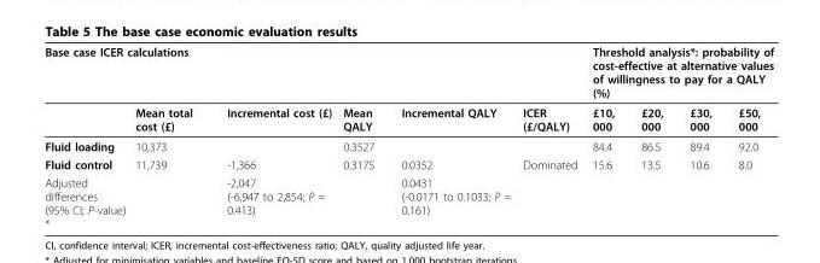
<table><thead><tr><td colspan="6">Base case ICER calculations</td><td colspan="4">Threshold analysis*: probability of cost-effective at alternative values of willingness to pay for a QALY (%)</td></tr><tr><td></td><td>Mean total cost (£)</td><td>Incremental cost (£)</td><td>Mean QALY</td><td>Incremental QALY</td><td>ICER (£/QALY)</td><td>£10, 000</td><td>£20, 000</td><td>£30, 000</td><td>£50, 000</td></tr></thead><tbody><tr><td>Fluid loading</td><td>10,373</td><td></td><td>0.3527</td><td></td><td></td><td>84.4</td><td>86.5</td><td>89.4</td><td>92.0</td></tr><tr><td>Fluid control</td><td>11,739</td><td>-1,366</td><td>0.3175</td><td>0.0352</td><td>Dominated</td><td>15.6</td><td>13.5</td><td>10.6</td><td>8.0</td></tr><tr><td>Adjusted differences (95% CI; P-value)</td><td></td><td>-2,047 (-6,947 to 2,854; P = 0.413)</td><td></td><td>0.0431 (-0.0171 to 0.1033; P = 0.161)</td><td></td><td></td><td></td><td></td><td></td></tr></tbody></table>